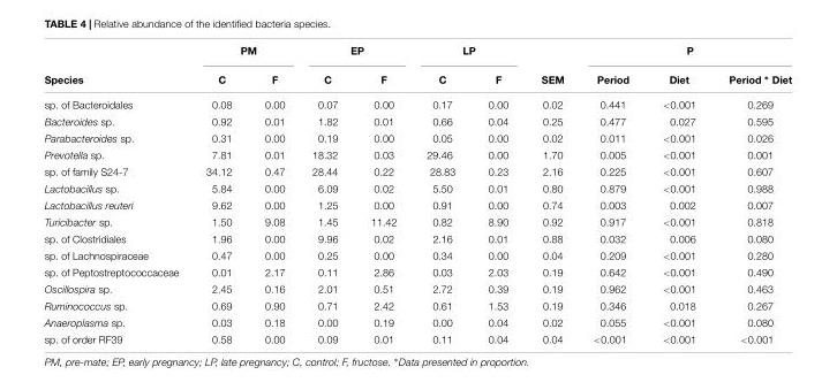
<table><thead><tr><td rowspan="2">Species</td><td colspan="2">PM</td><td colspan="2">EP</td><td colspan="2">LP</td><td rowspan="2">SEM</td><td colspan="3">P</td></tr><tr><td>C</td><td>F</td><td>C</td><td>F</td><td>C</td><td>F</td><td>Period</td><td>Diet</td><td>Period ∗ Diet</td></tr></thead><tbody><tr><td>sp. of Bacteroidales</td><td>0.08</td><td>0.00</td><td>0.07</td><td>0.00</td><td>0.17</td><td>0.00</td><td>0.02</td><td>0.441</td><td>&lt;0.001</td><td>0.269</td></tr><tr><td>Bacteroides sp.</td><td>0.92</td><td>0.01</td><td>1.82</td><td>0.01</td><td>0.66</td><td>0.04</td><td>0.25</td><td>0.477</td><td>0.027</td><td>0.595</td></tr><tr><td>Parabacteroides sp.</td><td>0.31</td><td>0.00</td><td>0.19</td><td>0.00</td><td>0.05</td><td>0.00</td><td>0.02</td><td>0.011</td><td>&lt;0.001</td><td>0.026</td></tr><tr><td>Prevotella sp.</td><td>7.81</td><td>0.01</td><td>18.32</td><td>0.03</td><td>29.46</td><td>0.00</td><td>1.70</td><td>0.005</td><td>&lt;0.001</td><td>0.001</td></tr><tr><td>sp. of family S24-7</td><td>34.12</td><td>0.47</td><td>28.44</td><td>0.22</td><td>28.83</td><td>0.23</td><td>2.16</td><td>0.225</td><td>&lt;0.001</td><td>0.607</td></tr><tr><td>Lactobacillus sp.</td><td>5.84</td><td>0.00</td><td>6.09</td><td>0.02</td><td>5.50</td><td>0.01</td><td>0.80</td><td>0.879</td><td>&lt;0.001</td><td>0.988</td></tr><tr><td>Lactobacillus reuteri</td><td>9.62</td><td>0.00</td><td>1.25</td><td>0.00</td><td>0.91</td><td>0.00</td><td>0.74</td><td>0.003</td><td>0.002</td><td>0.007</td></tr><tr><td>Turicibacter sp.</td><td>1.50</td><td>9.08</td><td>1.45</td><td>11.42</td><td>0.82</td><td>8.90</td><td>0.92</td><td>0.917</td><td>&lt;0.001</td><td>0.818</td></tr><tr><td>sp. of Clostridiales</td><td>1.96</td><td>0.00</td><td>9.96</td><td>0.02</td><td>2.16</td><td>0.01</td><td>0.88</td><td>0.032</td><td>0.006</td><td>0.080</td></tr><tr><td>sp. of Lachnospiraceae</td><td>0.47</td><td>0.00</td><td>0.25</td><td>0.00</td><td>0.34</td><td>0.00</td><td>0.04</td><td>0.209</td><td>&lt;0.001</td><td>0.280</td></tr><tr><td>sp. of Peptostreptococcaceae</td><td>0.01</td><td>2.17</td><td>0.11</td><td>2.86</td><td>0.03</td><td>2.03</td><td>0.19</td><td>0.642</td><td>&lt;0.001</td><td>0.490</td></tr><tr><td>Oscillospira sp.</td><td>2.45</td><td>0.16</td><td>2.01</td><td>0.51</td><td>2.72</td><td>0.39</td><td>0.19</td><td>0.962</td><td>&lt;0.001</td><td>0.463</td></tr><tr><td>Ruminococcus sp.</td><td>0.69</td><td>0.90</td><td>0.71</td><td>2.42</td><td>0.61</td><td>1.53</td><td>0.19</td><td>0.346</td><td>0.018</td><td>0.267</td></tr><tr><td>Anaeroplasma sp.</td><td>0.03</td><td>0.18</td><td>0.00</td><td>0.19</td><td>0.00</td><td>0.04</td><td>0.02</td><td>0.055</td><td>&lt;0.001</td><td>0.080</td></tr><tr><td>sp. of order RF39</td><td>0.58</td><td>0.00</td><td>0.09</td><td>0.01</td><td>0.11</td><td>0.04</td><td>0.04</td><td>&lt;0.001</td><td>&lt;0.001</td><td>&lt;0.001</td></tr></tbody></table>